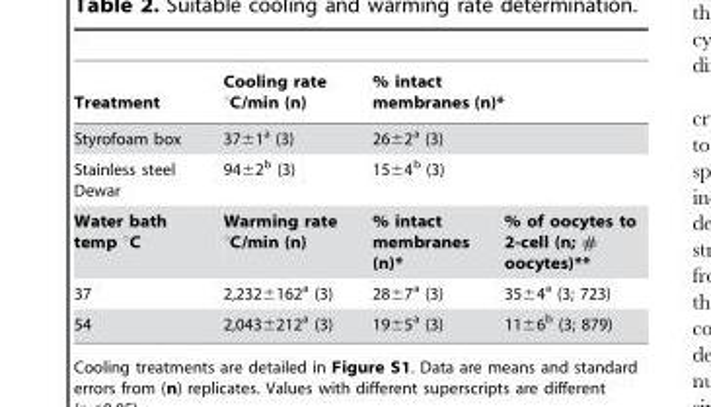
<table><thead><tr><td>Treatment</td><td>Cooling rate °C/min (n)</td><td>% intact membranes (n)*</td><td></td></tr></thead><tbody><tr><td>Styrofoam box</td><td>37±1<sup>a</sup> (3)</td><td>26±2<sup>a</sup> (3)</td><td></td></tr><tr><td>Stainless steel Dewar</td><td>94±2<sup>b</sup> (3)</td><td>15±4<sup>b</sup> (3)</td><td></td></tr><tr><td>Water bath temp °C</td><td>Warming rate °C/min (n)</td><td>% intact membranes (n)*</td><td>% of oocytes to 2-cell (n; # oocytes)**</td></tr><tr><td>37</td><td>2,232±162<sup>a</sup> (3)</td><td>28±7<sup>a</sup> (3)</td><td>35±4<sup>a</sup> (3; 723)</td></tr><tr><td>54</td><td>2,043±212<sup>a</sup> (3)</td><td>19±5<sup>a</sup> (3)</td><td>11±6<sup>b</sup> (3; 879)</td></tr></tbody></table>